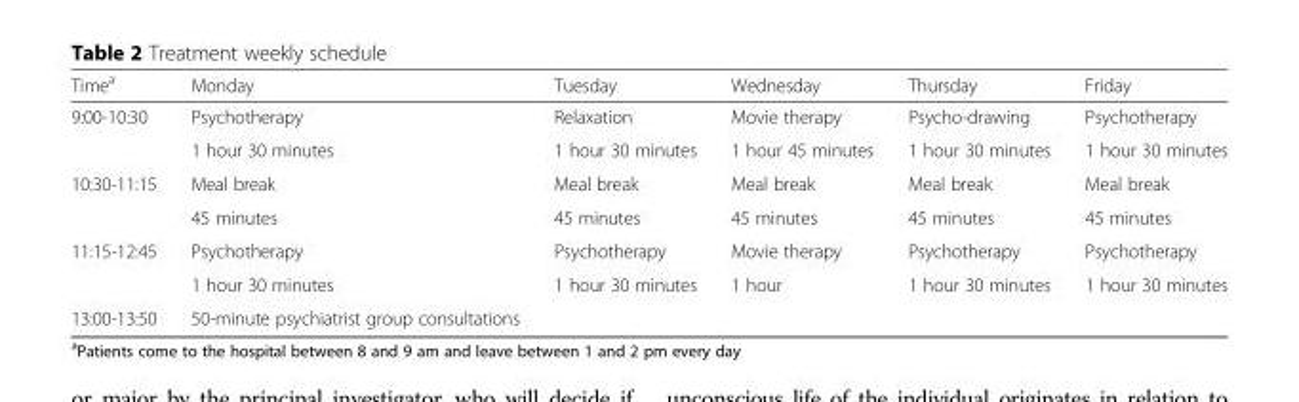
<table><thead><tr><td>Time<sup>a</sup></td><td>Monday</td><td>Tuesday</td><td>Wednesday</td><td>Thursday</td><td>Friday</td></tr></thead><tbody><tr><td rowspan="2">9:00-10:30</td><td>Psychotherapy</td><td>Relaxation</td><td>Movie therapy</td><td>Psycho-drawing</td><td>Psychotherapy</td></tr><tr><td>1 hour 30 minutes</td><td>1 hour 30 minutes</td><td>1 hour 45 minutes</td><td>1 hour 30 minutes</td><td>1 hour 30 minutes</td></tr><tr><td rowspan="2">10:30-11:15</td><td>Meal break</td><td>Meal break</td><td>Meal break</td><td>Meal break</td><td>Meal break</td></tr><tr><td>45 minutes</td><td>45 minutes</td><td>45 minutes</td><td>45 minutes</td><td>45 minutes</td></tr><tr><td rowspan="2">11:15-12:45</td><td>Psychotherapy</td><td>Psychotherapy</td><td>Movie therapy</td><td>Psychotherapy</td><td>Psychotherapy</td></tr><tr><td>1 hour 30 minutes</td><td>1 hour 30 minutes</td><td>1 hour</td><td>1 hour 30 minutes</td><td>1 hour 30 minutes</td></tr><tr><td>13:00-13:50</td><td>50-minute psychiatrist group consultations</td><td></td><td></td><td></td><td></td></tr></tbody></table>